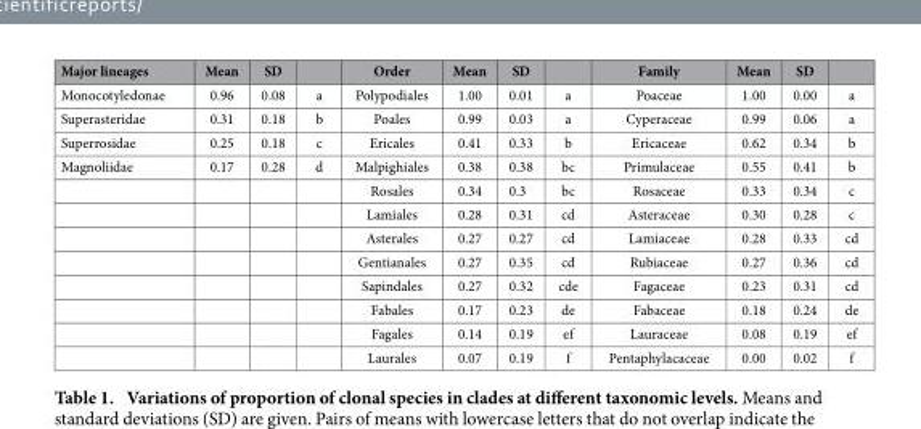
<table><thead><tr><td>Major lineages</td><td>Mean</td><td>SD</td><td></td><td>Order</td><td>Mean</td><td>SD</td><td></td><td>Family</td><td>Mean</td><td>SD</td><td></td></tr></thead><tbody><tr><td>Monocotyledonae</td><td>0.96</td><td>0.08</td><td>a</td><td>Polypodiales</td><td>1.00</td><td>0.01</td><td>a</td><td>Poaceae</td><td>1.00</td><td>0.00</td><td>a</td></tr><tr><td>Superasteridae</td><td>0.31</td><td>0.18</td><td>b</td><td>Poales</td><td>0.99</td><td>0.03</td><td>a</td><td>Cyperaceae</td><td>0.99</td><td>0.06</td><td>a</td></tr><tr><td>Superrosidae</td><td>0.25</td><td>0.18</td><td>c</td><td>Ericales</td><td>0.41</td><td>0.33</td><td>b</td><td>Ericaceae</td><td>0.62</td><td>0.34</td><td>b</td></tr><tr><td rowspan="9">Magnoliidae</td><td>0.17</td><td>0.28</td><td>d</td><td>Malpighiales</td><td>0.38</td><td>0.38</td><td>bc</td><td>Primulaceae</td><td>0.55</td><td>0.41</td><td>b</td></tr><tr><td></td><td></td><td></td><td>Rosales</td><td>0.34</td><td>0.3</td><td>bc</td><td>Rosaceae</td><td>0.33</td><td>0.34</td><td>c</td></tr><tr><td></td><td></td><td></td><td>Lamiales</td><td>0.28</td><td>0.31</td><td>cd</td><td>Asteraceae</td><td>0.30</td><td>0.28</td><td>c</td></tr><tr><td></td><td></td><td></td><td>Asterales</td><td>0.27</td><td>0.27</td><td>cd</td><td>Lamiaceae</td><td>0.28</td><td>0.33</td><td>cd</td></tr><tr><td></td><td></td><td></td><td>Gentianales</td><td>0.27</td><td>0.35</td><td>cd</td><td>Rubiaceae</td><td>0.27</td><td>0.36</td><td>cd</td></tr><tr><td></td><td></td><td></td><td>Sapindales</td><td>0.27</td><td>0.32</td><td>cde</td><td>Fagaceae</td><td>0.23</td><td>0.31</td><td>cd</td></tr><tr><td></td><td></td><td></td><td>Fabales</td><td>0.17</td><td>0.23</td><td>de</td><td>Fabaceae</td><td>0.18</td><td>0.24</td><td>de</td></tr><tr><td></td><td></td><td></td><td>Fagales</td><td>0.14</td><td>0.19</td><td>ef</td><td>Lauraceae</td><td>0.08</td><td>0.19</td><td>ef</td></tr><tr><td></td><td></td><td></td><td>Laurales</td><td>0.07</td><td>0.19</td><td>f</td><td>Pentaphylacaceae</td><td>0.00</td><td>0.02</td><td>f</td></tr></tbody></table>